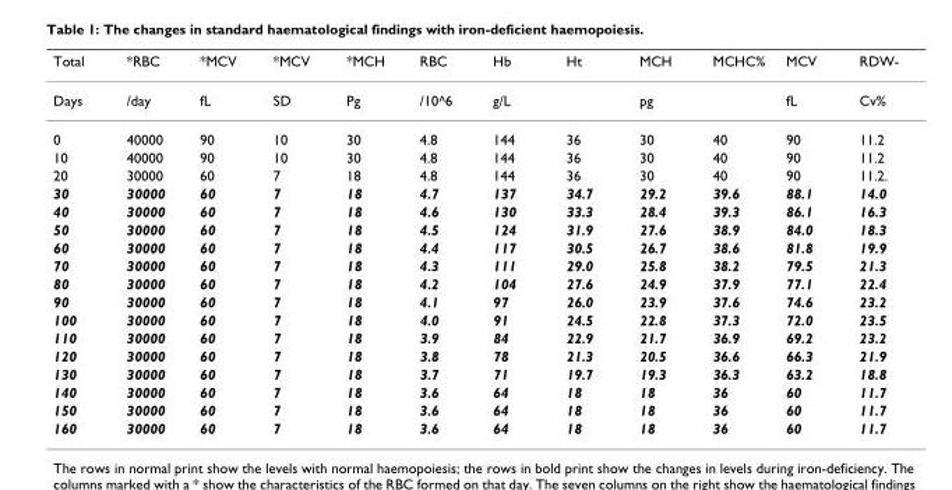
<table><thead><tr><td>Total</td><td>*RBC</td><td>*MCV</td><td>*MCV</td><td>*MCH</td><td>RBC</td><td>Hb</td><td>Ht</td><td>MCH</td><td>MCHC%</td><td>MCV</td><td>RDW-</td></tr></thead><tbody><tr><td>Days</td><td>/day</td><td>fL</td><td>SD</td><td>Pg</td><td>/10^6</td><td>g/L</td><td></td><td>pg</td><td></td><td>fL</td><td>Cv%</td></tr><tr><td>0</td><td>40000</td><td>90</td><td>10</td><td>30</td><td>4.8</td><td>144</td><td>36</td><td>30</td><td>40</td><td>90</td><td>11.2</td></tr><tr><td>10</td><td>40000</td><td>90</td><td>10</td><td>30</td><td>4.8</td><td>144</td><td>36</td><td>30</td><td>40</td><td>90</td><td>11.2</td></tr><tr><td>20</td><td>30000</td><td>60</td><td>7</td><td>18</td><td>4.8</td><td>144</td><td>36</td><td>30</td><td>40</td><td>90</td><td>11.2.</td></tr><tr><td>30</td><td>30000</td><td>60</td><td>7</td><td>18</td><td>4.7</td><td>137</td><td>34.7</td><td>29.2</td><td>39.6</td><td>88.1</td><td>14.0</td></tr><tr><td>40</td><td>30000</td><td>60</td><td>7</td><td>18</td><td>4.6</td><td>130</td><td>33.3</td><td>28.4</td><td>39.3</td><td>86.1</td><td>16.3</td></tr><tr><td>50</td><td>30000</td><td>60</td><td>7</td><td>18</td><td>4.5</td><td>124</td><td>31.9</td><td>27.6</td><td>38.9</td><td>84.0</td><td>18.3</td></tr><tr><td>60</td><td>30000</td><td>60</td><td>7</td><td>18</td><td>4.4</td><td>117</td><td>30.5</td><td>26.7</td><td>38.6</td><td>81.8</td><td>19.9</td></tr><tr><td>70</td><td>30000</td><td>60</td><td>7</td><td>18</td><td>4.3</td><td>111</td><td>29.0</td><td>25.8</td><td>38.2</td><td>79.5</td><td>21.3</td></tr><tr><td>80</td><td>30000</td><td>60</td><td>7</td><td>18</td><td>4.2</td><td>104</td><td>27.6</td><td>24.9</td><td>37.9</td><td>77.1</td><td>22.4</td></tr><tr><td>90</td><td>30000</td><td>60</td><td>7</td><td>18</td><td>4.1</td><td>97</td><td>26.0</td><td>23.9</td><td>37.6</td><td>74.6</td><td>23.2</td></tr><tr><td>100</td><td>30000</td><td>60</td><td>7</td><td>18</td><td>4.0</td><td>91</td><td>24.5</td><td>22.8</td><td>37.3</td><td>72.0</td><td>23.5</td></tr><tr><td>110</td><td>30000</td><td>60</td><td>7</td><td>18</td><td>3.9</td><td>84</td><td>22.9</td><td>21.7</td><td>36.9</td><td>69.2</td><td>23.2</td></tr><tr><td>120</td><td>30000</td><td>60</td><td>7</td><td>18</td><td>3.8</td><td>78</td><td>21.3</td><td>20.5</td><td>36.6</td><td>66.3</td><td>21.9</td></tr><tr><td>130</td><td>30000</td><td>60</td><td>7</td><td>18</td><td>3.7</td><td>71</td><td>19.7</td><td>19.3</td><td>36.3</td><td>63.2</td><td>18.8</td></tr><tr><td>140</td><td>30000</td><td>60</td><td>7</td><td>18</td><td>3.6</td><td>64</td><td>18</td><td>18</td><td>36</td><td>60</td><td>11.7</td></tr><tr><td>150</td><td>30000</td><td>60</td><td>7</td><td>18</td><td>3.6</td><td>64</td><td>18</td><td>18</td><td>36</td><td>60</td><td>11.7</td></tr><tr><td>160</td><td>30000</td><td>60</td><td>7</td><td>18</td><td>3.6</td><td>64</td><td>18</td><td>18</td><td>36</td><td>60</td><td>11.7</td></tr></tbody></table>